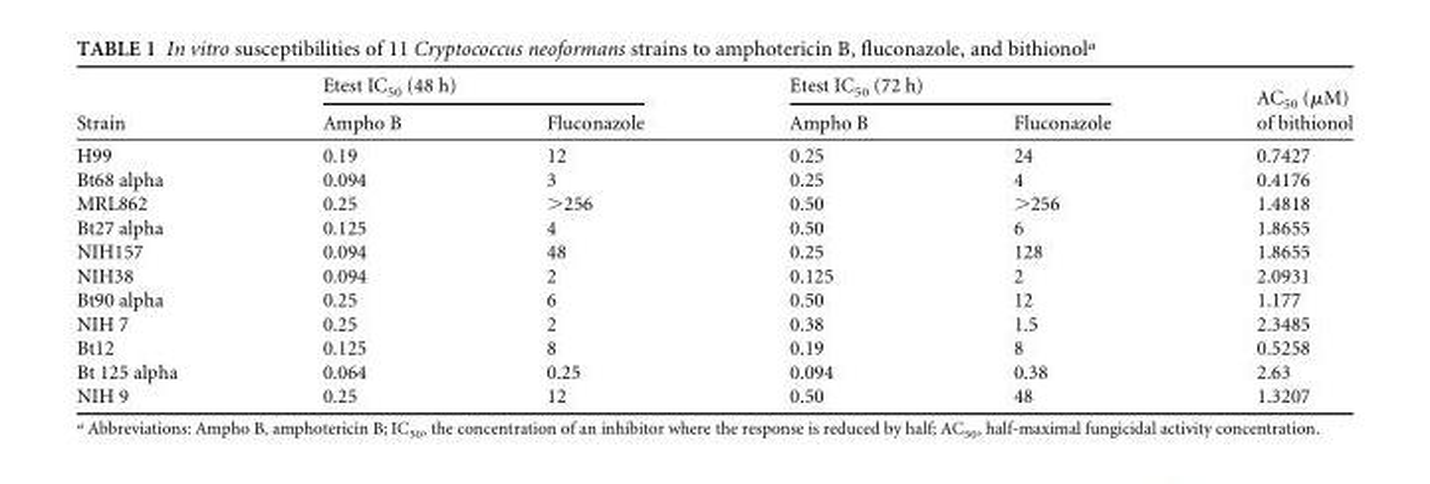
<table><thead><tr><td rowspan="2">Strain</td><td colspan="2">Etest IC<sub>50</sub> (48 h)</td><td colspan="2">Etest IC<sub>50</sub> (72 h)</td><td rowspan="2">AC<sub>50</sub> (μM) of bithionol</td></tr><tr><td>Ampho B</td><td>Fluconazole</td><td>Ampho B</td><td>Fluconazole</td></tr></thead><tbody><tr><td>H99</td><td>0.19</td><td>12</td><td>0.25</td><td>24</td><td>0.7427</td></tr><tr><td>Bt68 alpha</td><td>0.094</td><td>3</td><td>0.25</td><td>4</td><td>0.4176</td></tr><tr><td>MRL862</td><td>0.25</td><td>&gt;256</td><td>0.50</td><td>&gt;256</td><td>1.4818</td></tr><tr><td>Bt27 alpha</td><td>0.125</td><td>4</td><td>0.50</td><td>6</td><td>1.8655</td></tr><tr><td>NIH157</td><td>0.094</td><td>48</td><td>0.25</td><td>128</td><td>1.8655</td></tr><tr><td>NIH38</td><td>0.094</td><td>2</td><td>0.125</td><td>2</td><td>2.0931</td></tr><tr><td>Bt90 alpha</td><td>0.25</td><td>6</td><td>0.50</td><td>12</td><td>1.177</td></tr><tr><td>NIH 7</td><td>0.25</td><td>2</td><td>0.38</td><td>1.5</td><td>2.3485</td></tr><tr><td>Bt12</td><td>0.125</td><td>8</td><td>0.19</td><td>8</td><td>0.5258</td></tr><tr><td>Bt 125 alpha</td><td>0.064</td><td>0.25</td><td>0.094</td><td>0.38</td><td>2.63</td></tr><tr><td>NIH 9</td><td>0.25</td><td>12</td><td>0.50</td><td>48</td><td>1.3207</td></tr></tbody></table>